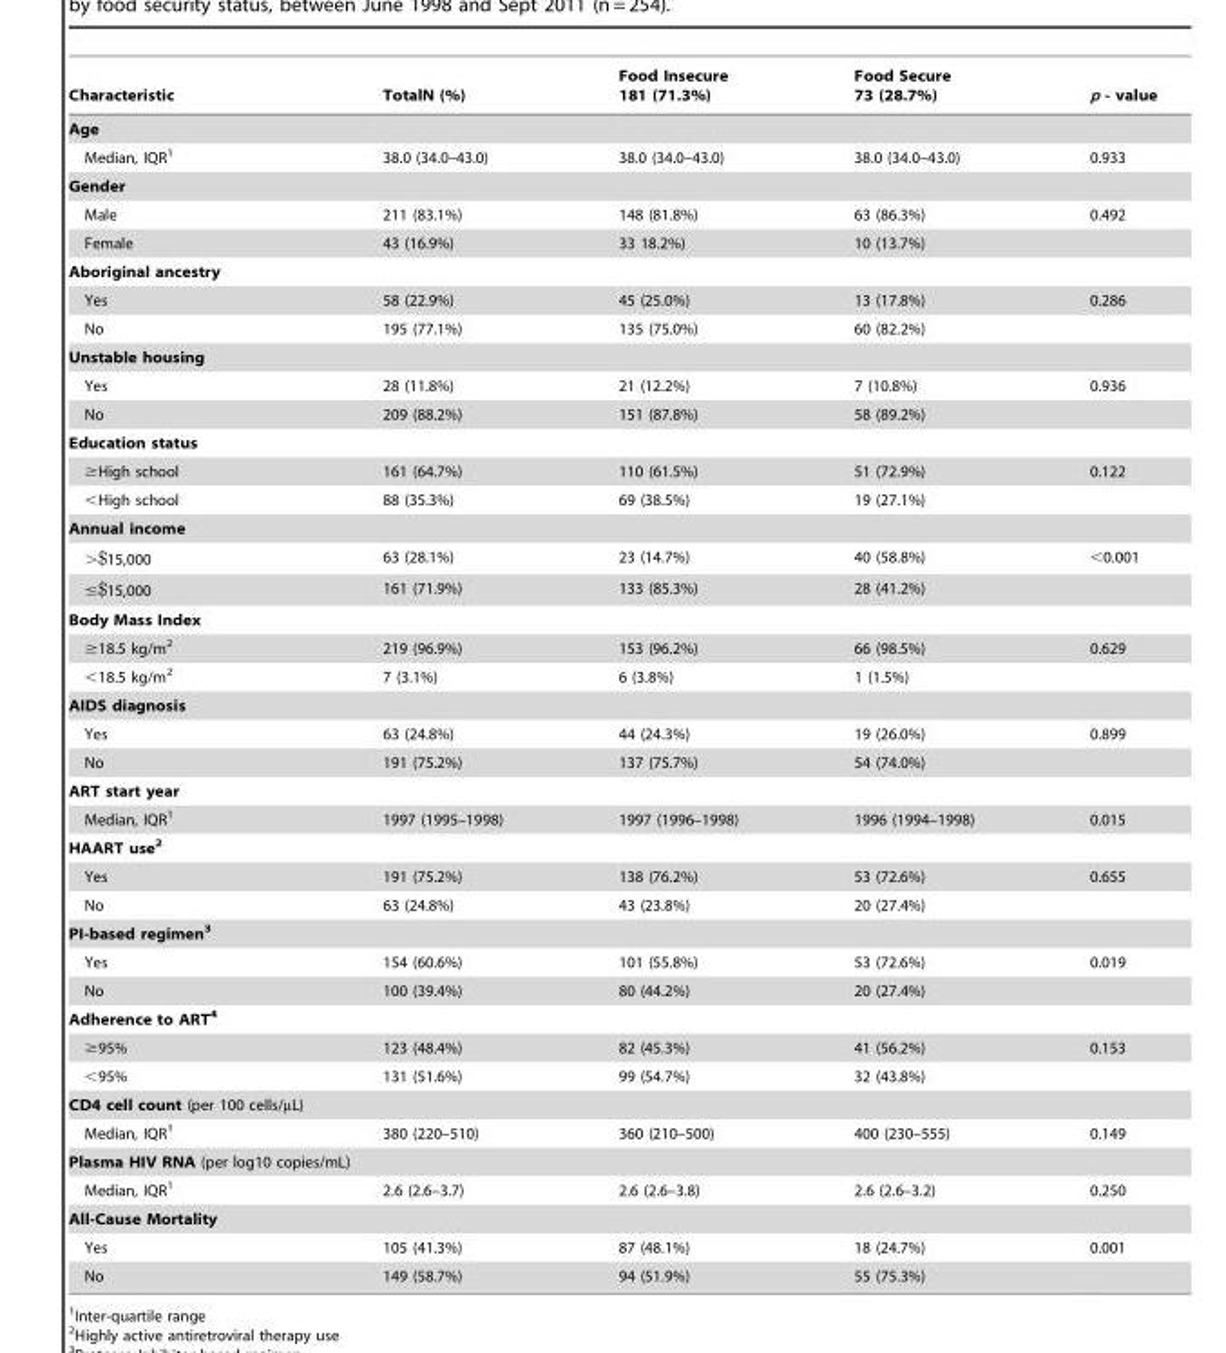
<table><thead><tr><td>Characteristic</td><td>TotalN (%)</td><td>Food Insecure 181 (71.3%)</td><td>Food Secure 73 (28.7%)</td><td>p - value</td></tr></thead><tbody><tr><td colspan="5">Age</td></tr><tr><td>Median, IQR<sup>1</sup></td><td>38.0 (34.0–43.0)</td><td>38.0 (34.0–43.0)</td><td>38.0 (34.0–43.0)</td><td>0.933</td></tr><tr><td colspan="5">Gender</td></tr><tr><td>Male</td><td>211 (83.1%)</td><td>148 (81.8%)</td><td>63 (86.3%)</td><td>0.492</td></tr><tr><td>Female</td><td>43 (16.9%)</td><td>33 18.2%)</td><td>10 (13.7%)</td><td></td></tr><tr><td colspan="5">Aboriginal ancestry</td></tr><tr><td>Yes</td><td>58 (22.9%)</td><td>45 (25.0%)</td><td>13 (17.8%)</td><td>0.286</td></tr><tr><td>No</td><td>195 (77.1%)</td><td>135 (75.0%)</td><td>60 (82.2%)</td><td></td></tr><tr><td colspan="5">Unstable housing</td></tr><tr><td>Yes</td><td>28 (11.8%)</td><td>21 (12.2%)</td><td>7 (10.8%)</td><td>0.936</td></tr><tr><td>No</td><td>209 (88.2%)</td><td>151 (87.8%)</td><td>58 (89.2%)</td><td></td></tr><tr><td colspan="5">Education status</td></tr><tr><td>≥High school</td><td>161 (64.7%)</td><td>110 (61.5%)</td><td>51 (72.9%)</td><td>0.122</td></tr><tr><td>&lt;High school</td><td>88 (35.3%)</td><td>69 (38.5%)</td><td>19 (27.1%)</td><td></td></tr><tr><td colspan="5">Annual income</td></tr><tr><td>&gt;$15,000</td><td>63 (28.1%)</td><td>23 (14.7%)</td><td>40 (58.8%)</td><td>&lt;0.001</td></tr><tr><td>≤$15,000</td><td>161 (71.9%)</td><td>133 (85.3%)</td><td>28 (41.2%)</td><td></td></tr><tr><td colspan="5">Body Mass Index</td></tr><tr><td>≥18.5 kg/m<sup>2</sup></td><td>219 (96.9%)</td><td>153 (96.2%)</td><td>66 (98.5%)</td><td>0.629</td></tr><tr><td>&lt;18.5 kg/m<sup>2</sup></td><td>7 (3.1%)</td><td>6 (3.8%)</td><td>1 (1.5%)</td><td></td></tr><tr><td colspan="5">AIDS diagnosis</td></tr><tr><td>Yes</td><td>63 (24.8%)</td><td>44 (24.3%)</td><td>19 (26.0%)</td><td>0.899</td></tr><tr><td>No</td><td>191 (75.2%)</td><td>137 (75.7%)</td><td>54 (74.0%)</td><td></td></tr><tr><td colspan="5">ART start year</td></tr><tr><td>Median, IQR<sup>1</sup></td><td>1997 (1995–1998)</td><td>1997 (1996–1998)</td><td>1996 (1994–1998)</td><td>0.015</td></tr><tr><td colspan="5">HAART use<sup>2</sup></td></tr><tr><td>Yes</td><td>191 (75.2%)</td><td>138 (76.2%)</td><td>53 (72.6%)</td><td>0.655</td></tr><tr><td>No</td><td>63 (24.8%)</td><td>43 (23.8%)</td><td>20 (27.4%)</td><td></td></tr><tr><td colspan="5">PI-based regimen<sup>3</sup></td></tr><tr><td>Yes</td><td>154 (60.6%)</td><td>101 (55.8%)</td><td>53 (72.6%)</td><td>0.019</td></tr><tr><td>No</td><td>100 (39.4%)</td><td>80 (44.2%)</td><td>20 (27.4%)</td><td></td></tr><tr><td colspan="5">Adherence to ART<sup>4</sup></td></tr><tr><td>≥95%</td><td>123 (48.4%)</td><td>82 (45.3%)</td><td>41 (56.2%)</td><td>0.153</td></tr><tr><td>&lt;95%</td><td>131 (51.6%)</td><td>99 (54.7%)</td><td>32 (43.8%)</td><td></td></tr><tr><td colspan="5">CD4 cell count (per 100 cells/µL)</td></tr><tr><td>Median, IQR<sup>1</sup></td><td>380 (220–510)</td><td>360 (210–500)</td><td>400 (230–555)</td><td>0.149</td></tr><tr><td colspan="5">Plasma HIV RNA (per log10 copies/mL)</td></tr><tr><td>Median, IQR<sup>1</sup></td><td>2.6 (2.6–3.7)</td><td>2.6 (2.6–3.8)</td><td>2.6 (2.6–3.2)</td><td>0.250</td></tr><tr><td colspan="5">All-Cause Mortality</td></tr><tr><td>Yes</td><td>105 (41.3%)</td><td>87 (48.1%)</td><td>18 (24.7%)</td><td>0.001</td></tr><tr><td>No</td><td>149 (58.7%)</td><td>94 (51.9%)</td><td>55 (75.3%)</td><td></td></tr></tbody></table>